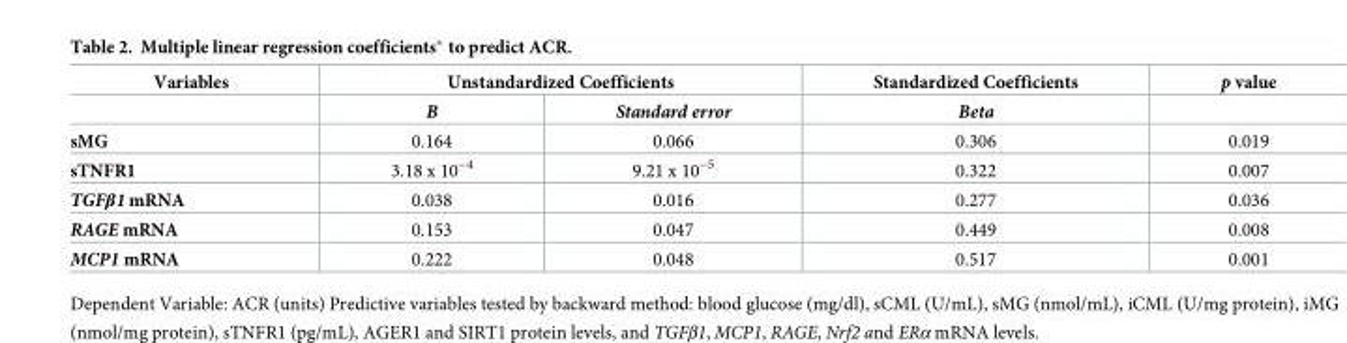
<table><thead><tr><td rowspan="2">Variables</td><td colspan="2">Unstandardized Coefficients</td><td rowspan="2">Standardized Coefficients Beta</td><td rowspan="2">p value</td></tr><tr><td>B</td><td>Standard error</td></tr></thead><tbody><tr><td>sMG</td><td>0.164</td><td>0.066</td><td>0.306</td><td>0.019</td></tr><tr><td>sTNFR1</td><td>3.18 x 10<sup>−4</sup></td><td>9.21 x 10<sup>−5</sup></td><td>0.322</td><td>0.007</td></tr><tr><td>TGFβ1 mRNA</td><td>0.038</td><td>0.016</td><td>0.277</td><td>0.036</td></tr><tr><td>RAGE mRNA</td><td>0.153</td><td>0.047</td><td>0.449</td><td>0.008</td></tr><tr><td>MCP1 mRNA</td><td>0.222</td><td>0.048</td><td>0.517</td><td>0.001</td></tr></tbody></table>